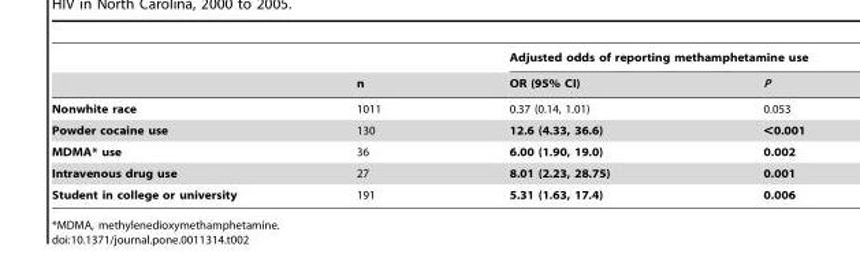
<table><thead><tr><td rowspan="2"></td><td rowspan="2">n</td><td colspan="2">Adjusted odds of reporting methamphetamine use</td></tr><tr><td>OR (95% CI)</td><td>P</td></tr></thead><tbody><tr><td>Nonwhite race</td><td>1011</td><td>0.37 (0.14, 1.01)</td><td>0.053</td></tr><tr><td>Powder cocaine use</td><td>130</td><td>12.6 (4.33, 36.6)</td><td>&lt;0.001</td></tr><tr><td>MDMA* use</td><td>36</td><td>6.00 (1.90, 19.0)</td><td>0.002</td></tr><tr><td>Intravenous drug use</td><td>27</td><td>8.01 (2.23, 28.75)</td><td>0.001</td></tr><tr><td>Student in college or university</td><td>191</td><td>5.31 (1.63, 17.4)</td><td>0.006</td></tr></tbody></table>